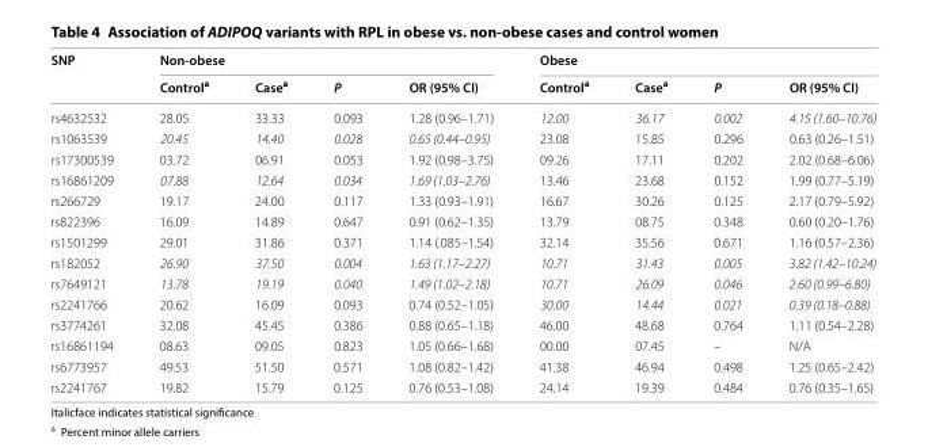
<table><thead><tr><td rowspan="2">SNP</td><td colspan="4">Non‑obese</td><td colspan="4">Obese</td></tr><tr><td>Control<sup>a</sup></td><td>Case<sup>a</sup></td><td>P</td><td>OR (95% CI)</td><td>Control<sup>a</sup></td><td>Case<sup>a</sup></td><td>P</td><td>OR (95% CI)</td></tr></thead><tbody><tr><td>rs4632532</td><td>28.05</td><td>33.33</td><td>0.093</td><td>1.28 (0.96–1.71)</td><td>12.00</td><td>36.17</td><td>0.002</td><td>4.15 (1.60–10.76)</td></tr><tr><td>rs1063539</td><td>20.45</td><td>14.40</td><td>0.028</td><td>0.65 (0.44–0.95)</td><td>23.08</td><td>15.85</td><td>0.296</td><td>0.63 (0.26–1.51)</td></tr><tr><td>rs17300539</td><td>03.72</td><td>06.91</td><td>0.053</td><td>1.92 (0.98–3.75)</td><td>09.26</td><td>17.11</td><td>0.202</td><td>2.02 (0.68–6.06)</td></tr><tr><td>rs16861209</td><td>07.88</td><td>12.64</td><td>0.034</td><td>1.69 (1.03–2.76)</td><td>13.46</td><td>23.68</td><td>0.152</td><td>1.99 (0.77–5.19)</td></tr><tr><td>rs266729</td><td>19.17</td><td>24.00</td><td>0.117</td><td>1.33 (0.93–1.91)</td><td>16.67</td><td>30.26</td><td>0.125</td><td>2.17 (0.79–5.92)</td></tr><tr><td>rs822396</td><td>16.09</td><td>14.89</td><td>0.647</td><td>0.91 (0.62–1.35)</td><td>13.79</td><td>08.75</td><td>0.348</td><td>0.60 (0.20–1.76)</td></tr><tr><td>rs1501299</td><td>29.01</td><td>31.86</td><td>0.371</td><td>1.14 (.085–1.54)</td><td>32.14</td><td>35.56</td><td>0.671</td><td>1.16 (0.57–2.36)</td></tr><tr><td>rs182052</td><td>26.90</td><td>37.50</td><td>0.004</td><td>1.63 (1.17–2.27)</td><td>10.71</td><td>31.43</td><td>0.005</td><td>3.82 (1.42–10.24)</td></tr><tr><td>rs7649121</td><td>13.78</td><td>19.19</td><td>0.040</td><td>1.49 (1.02–2.18)</td><td>10.71</td><td>26.09</td><td>0.046</td><td>2.60 (0.99–6.80)</td></tr><tr><td>rs2241766</td><td>20.62</td><td>16.09</td><td>0.093</td><td>0.74 (0.52–1.05)</td><td>30.00</td><td>14.44</td><td>0.021</td><td>0.39 (0.18–0.88)</td></tr><tr><td>rs3774261</td><td>32.08</td><td>45.45</td><td>0.386</td><td>0.88 (0.65–1.18)</td><td>46.00</td><td>48.68</td><td>0.764</td><td>1.11 (0.54–2.28)</td></tr><tr><td>rs16861194</td><td>08.63</td><td>09.05</td><td>0.823</td><td>1.05 (0.66–1.68)</td><td>00.00</td><td>07.45</td><td>–</td><td>N/A</td></tr><tr><td>rs6773957</td><td>49.53</td><td>51.50</td><td>0.571</td><td>1.08 (0.82–1.42)</td><td>41.38</td><td>46.94</td><td>0.498</td><td>1.25 (0.65–2.42)</td></tr><tr><td>rs2241767</td><td>19.82</td><td>15.79</td><td>0.125</td><td>0.76 (0.53–1.08)</td><td>24.14</td><td>19.39</td><td>0.484</td><td>0.76 (0.35–1.65)</td></tr></tbody></table>